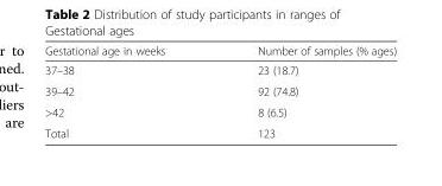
<table><thead><tr><td>Gestational age in weeks</td><td>Number of samples (% ages)</td></tr></thead><tbody><tr><td>37–38</td><td>23 (18.7)</td></tr><tr><td>39–42</td><td>92 (74.8)</td></tr><tr><td>&gt;42</td><td>8 (6.5)</td></tr><tr><td>Total</td><td>123</td></tr></tbody></table>